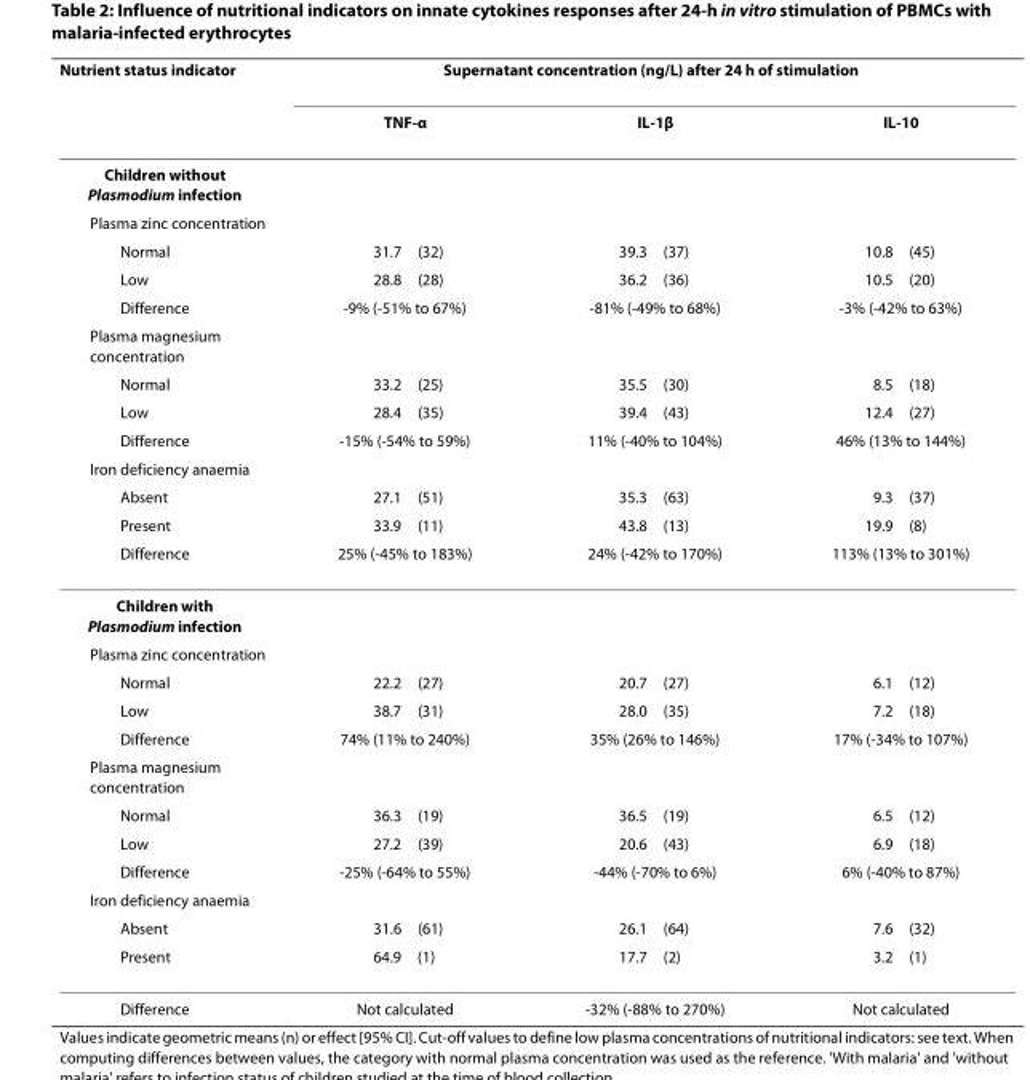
<table><thead><tr><td rowspan="3">Nutrient status indicator Children without Plasmodium infection</td><td colspan="6">Supernatant concentration (ng/L) after 24 h of stimulation</td></tr><tr><td colspan="2">TNF-α</td><td colspan="2">IL-1β</td><td colspan="2">IL-10</td></tr><tr><td></td><td></td><td></td><td></td><td></td><td></td></tr></thead><tbody><tr><td colspan="7">Plasma zinc concentration</td></tr><tr><td>Normal</td><td>31.7</td><td>(32)</td><td>39.3</td><td>(37)</td><td>10.8</td><td>(45)</td></tr><tr><td>Low</td><td>28.8</td><td>(28)</td><td>36.2</td><td>(36)</td><td>10.5</td><td>(20)</td></tr><tr><td>Difference</td><td colspan="2">-9% (-51% to 67%)</td><td colspan="2">-81% (-49% to 68%)</td><td colspan="2">-3% (-42% to 63%)</td></tr><tr><td colspan="7">Plasma magnesium concentration</td></tr><tr><td>Normal</td><td>33.2</td><td>(25)</td><td>35.5</td><td>(30)</td><td>8.5</td><td>(18)</td></tr><tr><td>Low</td><td>28.4</td><td>(35)</td><td>39.4</td><td>(43)</td><td>12.4</td><td>(27)</td></tr><tr><td>Difference</td><td colspan="2">-15% (-54% to 59%)</td><td colspan="2">11% (-40% to 104%)</td><td colspan="2">46% (13% to 144%)</td></tr><tr><td colspan="7">Iron deficiency anaemia</td></tr><tr><td>Absent</td><td>27.1</td><td>(51)</td><td>35.3</td><td>(63)</td><td>9.3</td><td>(37)</td></tr><tr><td>Present</td><td>33.9</td><td>(11)</td><td>43.8</td><td>(13)</td><td>19.9</td><td>(8)</td></tr><tr><td>Difference</td><td colspan="2">25% (-45% to 183%)</td><td colspan="2">24% (-42% to 170%)</td><td colspan="2">113% (13% to 301%)</td></tr><tr><td colspan="7">Children with Plasmodium infection</td></tr><tr><td colspan="7">Plasma zinc concentration</td></tr><tr><td>Normal</td><td>22.2</td><td>(27)</td><td>20.7</td><td>(27)</td><td>6.1</td><td>(12)</td></tr><tr><td>Low</td><td>38.7</td><td>(31)</td><td>28.0</td><td>(35)</td><td>7.2</td><td>(18)</td></tr><tr><td>Difference</td><td colspan="2">74% (11% to 240%)</td><td colspan="2">35% (26% to 146%)</td><td colspan="2">17% (-34% to 107%)</td></tr><tr><td colspan="7">Plasma magnesium concentration</td></tr><tr><td>Normal</td><td>36.3</td><td>(19)</td><td>36.5</td><td>(19)</td><td>6.5</td><td>(12)</td></tr><tr><td>Low</td><td>27.2</td><td>(39)</td><td>20.6</td><td>(43)</td><td>6.9</td><td>(18)</td></tr><tr><td>Difference</td><td colspan="2">-25% (-64% to 55%)</td><td colspan="2">-44% (-70% to 6%)</td><td colspan="2">6% (-40% to 87%)</td></tr><tr><td colspan="7">Iron deficiency anaemia</td></tr><tr><td>Absent</td><td>31.6</td><td>(61)</td><td>26.1</td><td>(64)</td><td>7.6</td><td>(32)</td></tr><tr><td>Present</td><td>64.9</td><td>(1)</td><td>17.7</td><td>(2)</td><td>3.2</td><td>(1)</td></tr><tr><td>Difference</td><td colspan="2">Not calculated</td><td colspan="2">-32% (-88% to 270%)</td><td colspan="2">Not calculated</td></tr></tbody></table>